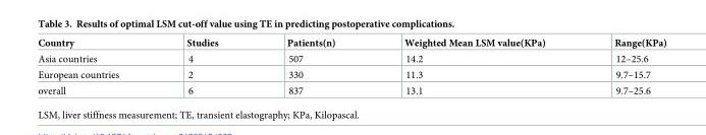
<table><thead><tr><td>Country</td><td>Studies</td><td>Patients(n)</td><td>Weighted Mean LSM value(KPa)</td><td>Range(KPa)</td></tr></thead><tbody><tr><td>Asia countries</td><td>4</td><td>507</td><td>14.2</td><td>12–25.6</td></tr><tr><td>European countries</td><td>2</td><td>330</td><td>11.3</td><td>9.7–15.7</td></tr><tr><td>overall</td><td>6</td><td>837</td><td>13.1</td><td>9.7–25.6</td></tr></tbody></table>